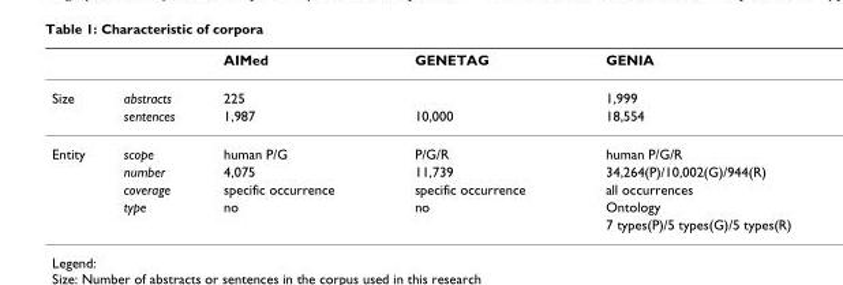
<table><thead><tr><td></td><td></td><td>AIMed</td><td>GENETAG</td><td>GENIA</td></tr></thead><tbody><tr><td rowspan="2">Size</td><td>abstracts</td><td>225</td><td></td><td>1,999</td></tr><tr><td>sentences</td><td>1,987</td><td>10,000</td><td>18,554</td></tr><tr><td rowspan="5">Entity</td><td>scope</td><td>human P/G</td><td>P/G/R</td><td>human P/G/R</td></tr><tr><td>number</td><td>4,075</td><td>11,739</td><td>34,264(P)/10,002(G)/944(R)</td></tr><tr><td>coverage</td><td>specific occurrence</td><td>specific occurrence</td><td>all occurrences</td></tr><tr><td>type</td><td>no</td><td>no</td><td>Ontology</td></tr><tr><td></td><td></td><td></td><td>7 types(P)/5 types(G)/5 types(R)</td></tr></tbody></table>